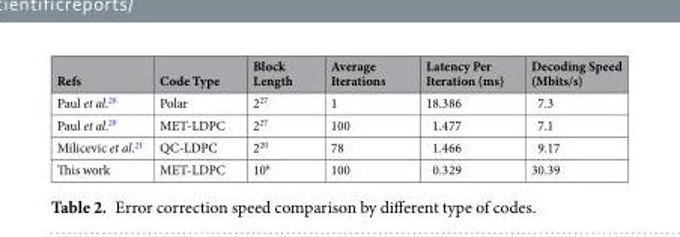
<table><thead><tr><td>Refs</td><td>Code Type</td><td>Block Length</td><td>Average Iterations</td><td>Latency Per Iteration (ms)</td><td>Decoding Speed (Mbits/s)</td></tr></thead><tbody><tr><td>Paul et al.<sup>20</sup></td><td>Polar</td><td>2<sup>27</sup></td><td>1</td><td>18.386</td><td>7.3</td></tr><tr><td>Paul et al.<sup>20</sup></td><td>MET-LDPC</td><td>2<sup>27</sup></td><td>100</td><td>1.477</td><td>7.1</td></tr><tr><td>Milicevic et al.<sup>21</sup></td><td>QC-LDPC</td><td>2<sup>20</sup></td><td>78</td><td>1.466</td><td>9.17</td></tr><tr><td>This work</td><td>MET-LDPC</td><td>10<sup>6</sup></td><td>100</td><td>0.329</td><td>30.39</td></tr></tbody></table>